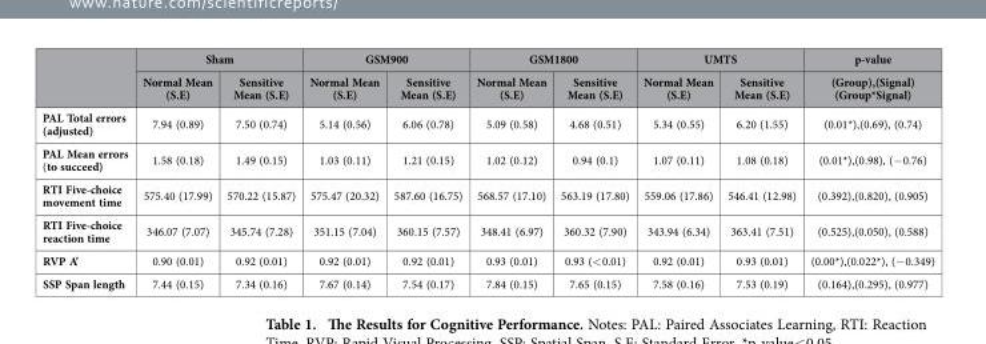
<table><thead><tr><td rowspan="2"></td><td colspan="2">Sham</td><td colspan="2">GSM900</td><td colspan="2">GSM1800</td><td colspan="2">UMTS</td><td rowspan="2">p-value (Group),(Signal) (Group*Signal)</td></tr><tr><td>Normal Mean (S.E)</td><td>Sensitive Mean (S.E)</td><td>Normal Mean (S.E)</td><td>Sensitive Mean (S.E)</td><td>Normal Mean (S.E)</td><td>Sensitive Mean (S.E)</td><td>Normal Mean (S.E)</td><td>Sensitive Mean (S.E)</td></tr></thead><tbody><tr><td>PAL Total errors (adjusted)</td><td>7.94 (0.89)</td><td>7.50 (0.74)</td><td>5.14 (0.56)</td><td>6.06 (0.78)</td><td>5.09 (0.58)</td><td>4.68 (0.51)</td><td>5.34 (0.55)</td><td>6.20 (1.55)</td><td>(0.01*),(0.69), (0.74)</td></tr><tr><td>PAL Mean errors (to succeed)</td><td>1.58 (0.18)</td><td>1.49 (0.15)</td><td>1.03 (0.11)</td><td>1.21 (0.15)</td><td>1.02 (0.12)</td><td>0.94 (0.1)</td><td>1.07 (0.11)</td><td>1.08 (0.18)</td><td>(0.01*),(0.98), (− 0.76)</td></tr><tr><td>RTI Five-choice movement time</td><td>575.40 (17.99)</td><td>570.22 (15.87)</td><td>575.47 (20.32)</td><td>587.60 (16.75)</td><td>568.57 (17.10)</td><td>563.19 (17.80)</td><td>559.06 (17.86)</td><td>546.41 (12.98)</td><td>(0.392),(0.820), (0.905)</td></tr><tr><td>RTI Five-choice reaction time</td><td>346.07 (7.07)</td><td>345.74 (7.28)</td><td>351.15 (7.04)</td><td>360.15 (7.57)</td><td>348.41 (6.97)</td><td>360.32 (7.90)</td><td>343.94 (6.34)</td><td>363.41 (7.51)</td><td>(0.525),(0.050), (0.588)</td></tr><tr><td>RVP A’</td><td>0.90 (0.01)</td><td>0.92 (0.01)</td><td>0.92 (0.01)</td><td>0.92 (0.01)</td><td>0.93 (0.01)</td><td>0.93 (&lt; 0.01)</td><td>0.92 (0.01)</td><td>0.93 (0.01)</td><td>(0.00*),(0.022*), (− 0.349)</td></tr><tr><td>SSP Span length</td><td>7.44 (0.15)</td><td>7.34 (0.16)</td><td>7.67 (0.14)</td><td>7.54 (0.17)</td><td>7.84 (0.15)</td><td>7.65 (0.15)</td><td>7.58 (0.16)</td><td>7.53 (0.19)</td><td>(0.164),(0.295), (0.977)</td></tr></tbody></table>